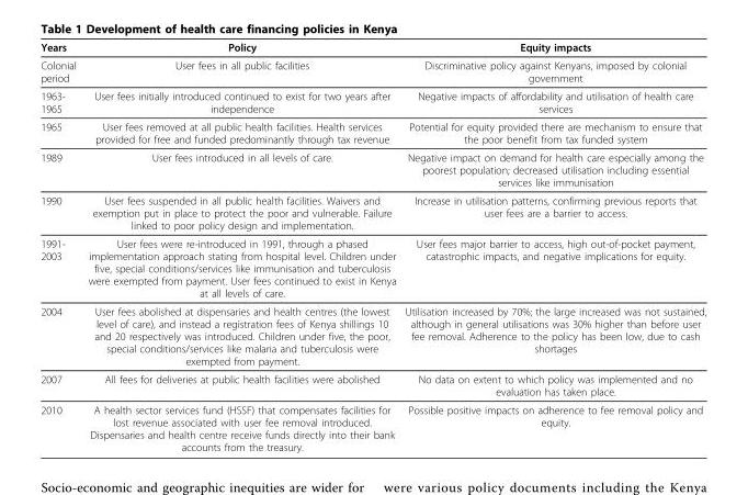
<table><thead><tr><td>Years</td><td>Policy</td><td>Equity impacts</td></tr></thead><tbody><tr><td>Colonial period</td><td>User fees in all public facilities</td><td>Discriminative policy against Kenyans, imposed by colonial government</td></tr><tr><td>1963- 1965</td><td>User fees initially introduced continued to exist for two years after independence</td><td>Negative impacts of affordability and utilisation of health care services</td></tr><tr><td>1965</td><td>User fees removed at all public health facilities. Health services provided for free and funded predominantly through tax revenue</td><td>Potential for equity provided there are mechanism to ensure that the poor benefit from tax funded system</td></tr><tr><td>1989</td><td>User fees introduced in all levels of care.</td><td>Negative impact on demand for health care especially among the poorest population; decreased utilisation including essential services like immunisation</td></tr><tr><td>1990</td><td>User fees suspended in all public health facilities. Waivers and exemption put in place to protect the poor and vulnerable. Failure linked to poor policy design and implementation.</td><td>Increase in utilisation patterns, confirming previous reports that user fees are a barrier to access.</td></tr><tr><td>1991- 2003</td><td>User fees were re-introduced in 1991, through a phased implementation approach stating from hospital level. Children under five, special conditions/services like immunisation and tuberculosis were exempted from payment. User fees continued to exist in Kenya at all levels of care.</td><td>User fees major barrier to access, high out-of-pocket payment, catastrophic impacts, and negative implications for equity.</td></tr><tr><td>2004</td><td>User fees abolished at dispensaries and health centres (the lowest level of care), and instead a registration fees of Kenya shillings 10 and 20 respectively was introduced. Children under five, the poor, special conditions/services like malaria and tuberculosis were exempted from payment.</td><td>Utilisation increased by 70%; the large increased was not sustained, although in general utilisations was 30% higher than before user fee removal. Adherence to the policy has been low, due to cash shortages</td></tr><tr><td>2007</td><td>All fees for deliveries at public health facilities were abolished</td><td>No data on extent to which policy was implemented and no evaluation has taken place.</td></tr><tr><td>2010</td><td>A health sector services fund (HSSF) that compensates facilities for lost revenue associated with user fee removal introduced. Dispensaries and health centre receive funds directly into their bank accounts from the treasury.</td><td>Possible positive impacts on adherence to fee removal policy and equity.</td></tr></tbody></table>